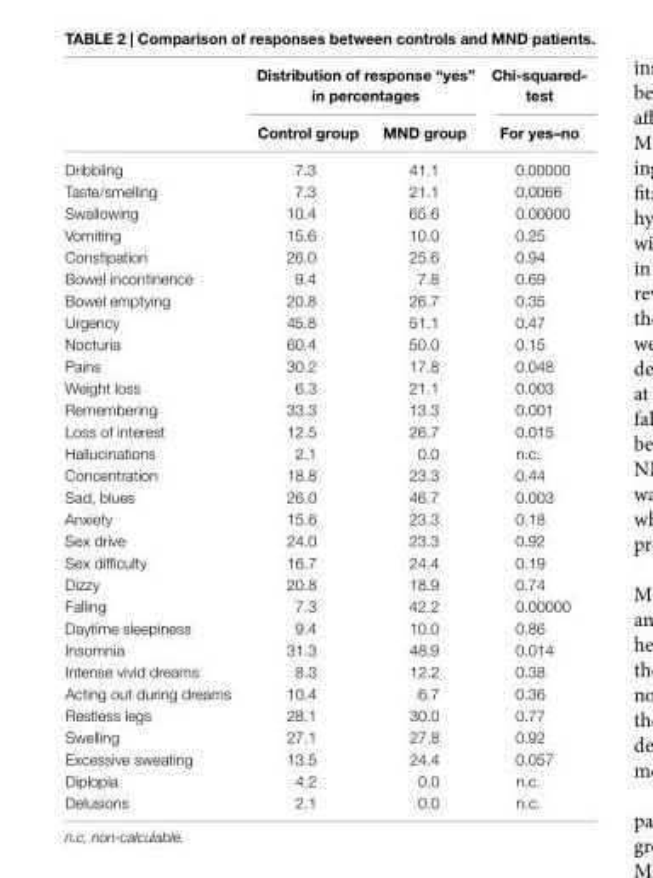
<table><thead><tr><td rowspan="2"></td><td colspan="2">Distribution of response “yes” in percentages</td><td rowspan="2">chi-squared- test For yes–no</td></tr><tr><td>control group</td><td>MnD group</td></tr></thead><tbody><tr><td>Dribbling</td><td>7.3</td><td>41.1</td><td>0.00000</td></tr><tr><td>Taste/smelling</td><td>7.3</td><td>21.1</td><td>0.0066</td></tr><tr><td>Swallowing</td><td>10.4</td><td>65.6</td><td>0.00000</td></tr><tr><td>Vomiting</td><td>15.6</td><td>10.0</td><td>0.25</td></tr><tr><td>Constipation</td><td>26.0</td><td>25.6</td><td>0.94</td></tr><tr><td>Bowel incontinence</td><td>9.4</td><td>7.8</td><td>0.69</td></tr><tr><td>Bowel emptying</td><td>20.8</td><td>26.7</td><td>0.35</td></tr><tr><td>Urgency</td><td>45.8</td><td>51.1</td><td>0.47</td></tr><tr><td>Nocturia</td><td>60.4</td><td>50.0</td><td>0.15</td></tr><tr><td>Pains</td><td>30.2</td><td>17.8</td><td>0.048</td></tr><tr><td>Weight loss</td><td>6.3</td><td>21.1</td><td>0.003</td></tr><tr><td>Remembering</td><td>33.3</td><td>13.3</td><td>0.001</td></tr><tr><td>Loss of interest</td><td>12.5</td><td>26.7</td><td>0.015</td></tr><tr><td>Hallucinations</td><td>2.1</td><td>0.0</td><td>n.c.</td></tr><tr><td>Concentration</td><td>18.8</td><td>23.3</td><td>0.44</td></tr><tr><td>Sad, blues</td><td>26.0</td><td>46.7</td><td>0.003</td></tr><tr><td>Anxiety</td><td>15.6</td><td>23.3</td><td>0.18</td></tr><tr><td>Sex drive</td><td>24.0</td><td>23.3</td><td>0.92</td></tr><tr><td>Sex difficulty</td><td>16.7</td><td>24.4</td><td>0.19</td></tr><tr><td>Dizzy</td><td>20.8</td><td>18.9</td><td>0.74</td></tr><tr><td>Falling</td><td>7.3</td><td>42.2</td><td>0.00000</td></tr><tr><td>Daytime sleepiness</td><td>9.4</td><td>10.0</td><td>0.86</td></tr><tr><td>Insomnia</td><td>31.3</td><td>48.9</td><td>0.014</td></tr><tr><td>Intense vivid dreams</td><td>8.3</td><td>12.2</td><td>0.38</td></tr><tr><td>Acting out during dreams</td><td>10.4</td><td>6.7</td><td>0.36</td></tr><tr><td>Restless legs</td><td>28.1</td><td>30.0</td><td>0.77</td></tr><tr><td>Swelling</td><td>27.1</td><td>27.8</td><td>0.92</td></tr><tr><td>Excessive sweating</td><td>13.5</td><td>24.4</td><td>0.057</td></tr><tr><td>Diplopia</td><td>4.2</td><td>0.0</td><td>n.c.</td></tr><tr><td>Delusions</td><td>2.1</td><td>0.0</td><td>n.c.</td></tr></tbody></table>